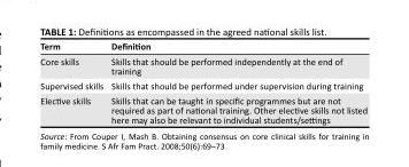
<table><thead><tr><td>Term</td><td>Definition</td></tr></thead><tbody><tr><td>Core skills</td><td>Skills that should be performed independently at the end of training</td></tr><tr><td>Supervised skills</td><td>Skills that should be performed under supervision during training</td></tr><tr><td>Elective skills</td><td>Skills that can be taught in specific programmes but are not required as part of national training. Other elective skills not listed here may also be relevant to individual students/settings</td></tr></tbody></table>